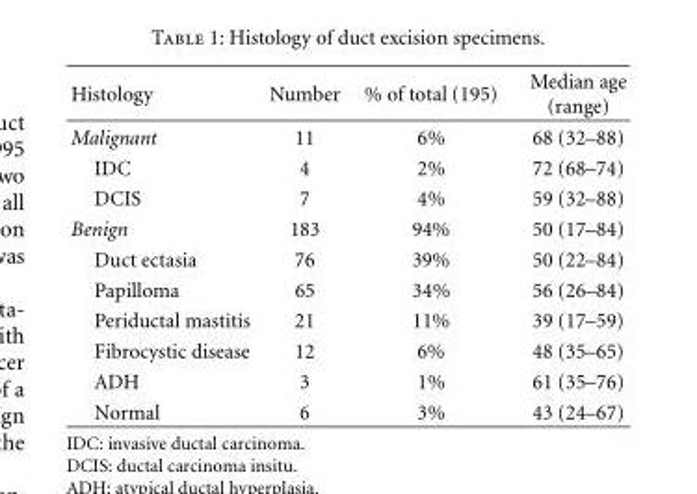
<table><thead><tr><td>Histology</td><td>Number</td><td>% of total (195)</td><td>Median age (range)</td></tr></thead><tbody><tr><td>Malignant</td><td>11</td><td>6%</td><td>68 (32–88)</td></tr><tr><td>IDC</td><td>4</td><td>2%</td><td>72 (68–74)</td></tr><tr><td>DCIS</td><td>7</td><td>4%</td><td>59 (32–88)</td></tr><tr><td>Benign</td><td>183</td><td>94%</td><td>50 (17–84)</td></tr><tr><td>Duct ectasia</td><td>76</td><td>39%</td><td>50 (22–84)</td></tr><tr><td>Papilloma</td><td>65</td><td>34%</td><td>56 (26–84)</td></tr><tr><td>Periductal mastitis</td><td>21</td><td>11%</td><td>39 (17–59)</td></tr><tr><td>Fibrocystic disease</td><td>12</td><td>6%</td><td>48 (35–65)</td></tr><tr><td>ADH</td><td>3</td><td>1%</td><td>61 (35–76)</td></tr><tr><td>Normal</td><td>6</td><td>3%</td><td>43 (24–67)</td></tr></tbody></table>